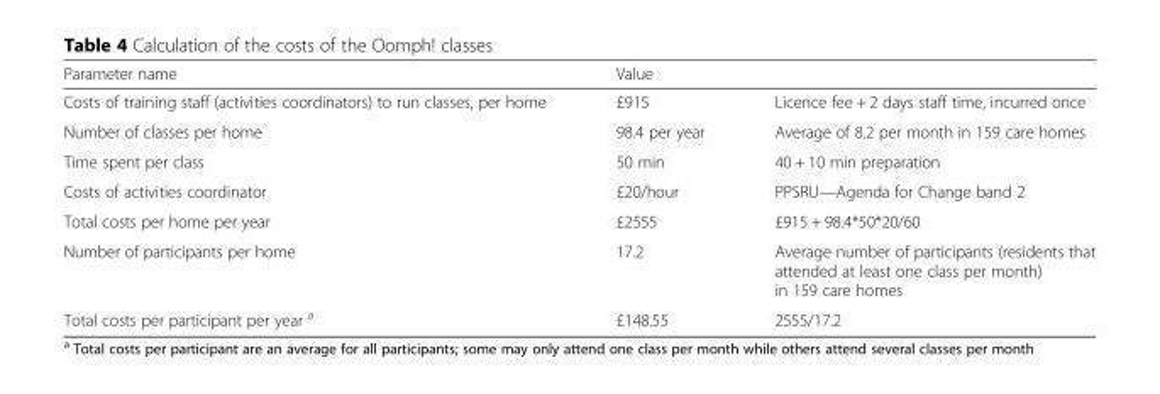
<table><thead><tr><td>Parameter name</td><td>Value</td><td></td></tr></thead><tbody><tr><td>Costs of training staff (activities coordinators) to run classes, per home</td><td>£915</td><td>Licence fee + 2 days staff time, incurred once</td></tr><tr><td>Number of classes per home</td><td>98.4 per year</td><td>Average of 8.2 per month in 159 care homes</td></tr><tr><td>Time spent per class</td><td>50 min</td><td>40 + 10 min preparation</td></tr><tr><td>Costs of activities coordinator</td><td>£20/hour</td><td>PPSRU—Agenda for Change band 2</td></tr><tr><td>Total costs per home per year</td><td>£2555</td><td>£915 + 98.4*50*20/60</td></tr><tr><td>Number of participants per home</td><td>17.2</td><td>Average number of participants (residents that attended at least one class per month) in 159 care homes</td></tr><tr><td>Total costs per participant per year <sup>a</sup></td><td>£148.55</td><td>2555/17.2</td></tr></tbody></table>